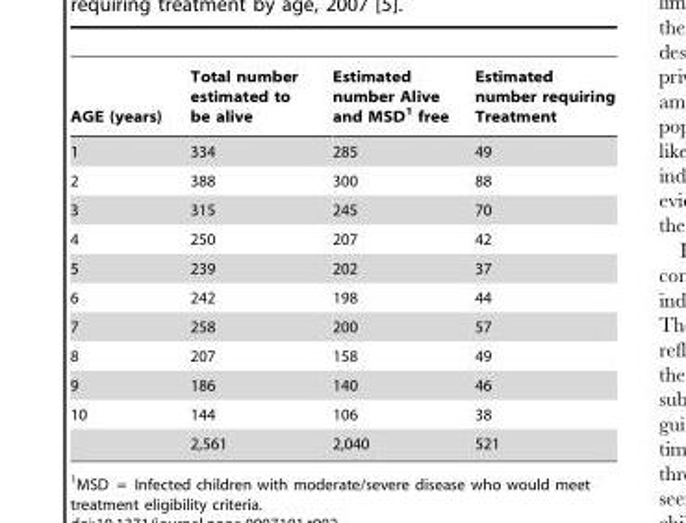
<table><thead><tr><td>AGE (years)</td><td>Total number estimated to be alive</td><td>Estimated number Alive and MSD<sup>1</sup> free</td><td>Estimated number requiring Treatment</td></tr></thead><tbody><tr><td>1</td><td>334</td><td>285</td><td>49</td></tr><tr><td>2</td><td>388</td><td>300</td><td>88</td></tr><tr><td>3</td><td>315</td><td>245</td><td>70</td></tr><tr><td>4</td><td>250</td><td>207</td><td>42</td></tr><tr><td>5</td><td>239</td><td>202</td><td>37</td></tr><tr><td>6</td><td>242</td><td>198</td><td>44</td></tr><tr><td>7</td><td>258</td><td>200</td><td>57</td></tr><tr><td>8</td><td>207</td><td>158</td><td>49</td></tr><tr><td>9</td><td>186</td><td>140</td><td>46</td></tr><tr><td rowspan="2">10</td><td>144</td><td>106</td><td>38</td></tr><tr><td>2,561</td><td>2,040</td><td>521</td></tr></tbody></table>